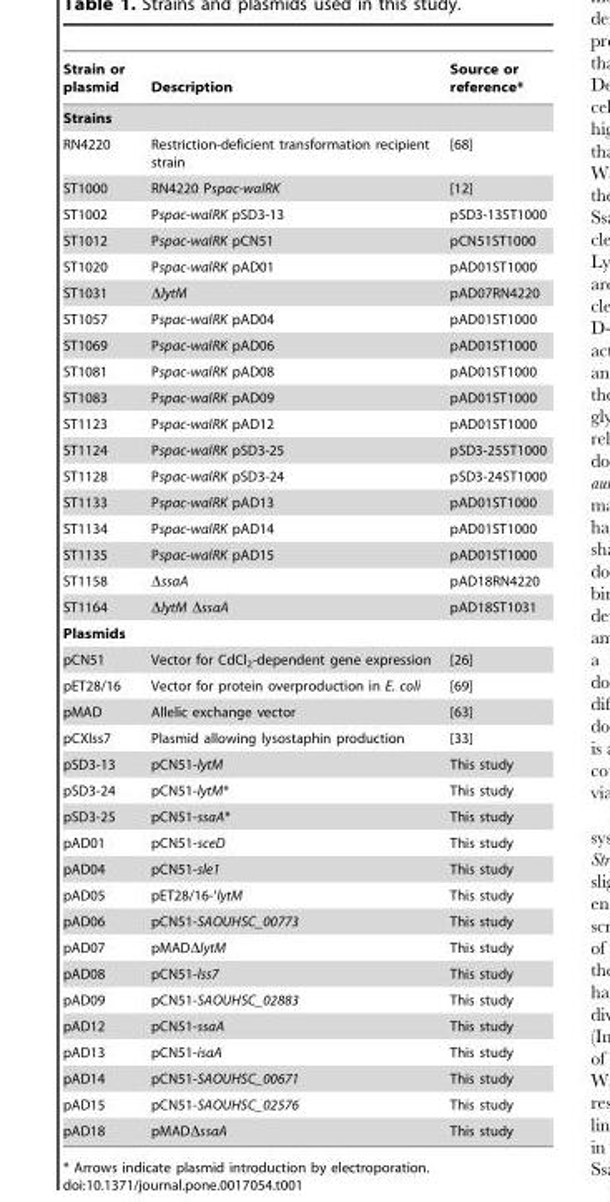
<table><thead><tr><td>Strain or plasmid</td><td>Description</td><td>Source or reference*</td></tr></thead><tbody><tr><td colspan="3">Strains</td></tr><tr><td>RN4220</td><td>Restriction-deficient transformation recipient strain</td><td>[68]</td></tr><tr><td>ST1000</td><td>RN4220 Pspac-walRK</td><td>[12]</td></tr><tr><td>ST1002</td><td>Pspac-walRK pSD3-13</td><td>pSD3-13ST1000</td></tr><tr><td>ST1012</td><td>Pspac-walRK pCN51</td><td>pCN51ST1000</td></tr><tr><td>ST1020</td><td>Pspac-walRK pAD01</td><td>pAD01ST1000</td></tr><tr><td>ST1031</td><td>ΔlytM</td><td>pAD07RN4220</td></tr><tr><td>ST1057</td><td>Pspac-walRK pAD04</td><td>pAD01ST1000</td></tr><tr><td>ST1069</td><td>Pspac-walRK pAD06</td><td>pAD01ST1000</td></tr><tr><td>ST1081</td><td>Pspac-walRK pAD08</td><td>pAD01ST1000</td></tr><tr><td>ST1083</td><td>Pspac-walRK pAD09</td><td>pAD01ST1000</td></tr><tr><td>ST1123</td><td>Pspac-walRK pAD12</td><td>pAD01ST1000</td></tr><tr><td>ST1124</td><td>Pspac-walRK pSD3-25</td><td>pSD3-25ST1000</td></tr><tr><td>ST1128</td><td>Pspac-walRK pSD3-24</td><td>pSD3-24ST1000</td></tr><tr><td>ST1133</td><td>Pspac-walRK pAD13</td><td>pAD01ST1000</td></tr><tr><td>ST1134</td><td>Pspac-walRK pAD14</td><td>pAD01ST1000</td></tr><tr><td>ST1135</td><td>Pspac-walRK pAD15</td><td>pAD01ST1000</td></tr><tr><td>ST1158</td><td>ΔssaA</td><td>pAD18RN4220</td></tr><tr><td>ST1164</td><td>ΔlytM ΔssaA</td><td>pAD18ST1031</td></tr><tr><td colspan="3">Plasmids</td></tr><tr><td>pCN51</td><td>Vector for CdCl<sub>2</sub>-dependent gene expression</td><td>[26]</td></tr><tr><td>pET28/16</td><td>Vector for protein overproduction in E. coli</td><td>[69]</td></tr><tr><td>pMAD</td><td>Allelic exchange vector</td><td>[63]</td></tr><tr><td>pCXlss7</td><td>Plasmid allowing lysostaphin production</td><td>[33]</td></tr><tr><td>pSD3-13</td><td>pCN51-lytM</td><td>This study</td></tr><tr><td>pSD3-24</td><td>pCN51-lytM*</td><td>This study</td></tr><tr><td>pSD3-25</td><td>pCN51-ssaA*</td><td>This study</td></tr><tr><td>pAD01</td><td>pCN51-sceD</td><td>This study</td></tr><tr><td>pAD04</td><td>pCN51-sle1</td><td>This study</td></tr><tr><td>pAD05</td><td>pET28/16-‘lytM</td><td>This study</td></tr><tr><td>pAD06</td><td>pCN51-SAOUHSC_00773</td><td>This study</td></tr><tr><td>pAD07</td><td>pMADΔlytM</td><td>This study</td></tr><tr><td>pAD08</td><td>pCN51-lss7</td><td>This study</td></tr><tr><td>pAD09</td><td>pCN51-SAOUHSC_02883</td><td>This study</td></tr><tr><td>pAD12</td><td>pCN51-ssaA</td><td>This study</td></tr><tr><td>pAD13</td><td>pCN51-isaA</td><td>This study</td></tr><tr><td>pAD14</td><td>pCN51-SAOUHSC_00671</td><td>This study</td></tr><tr><td>pAD15</td><td>pCN51-SAOUHSC_02576</td><td>This study</td></tr><tr><td>pAD18</td><td>pMADΔssaA</td><td>This study</td></tr></tbody></table>